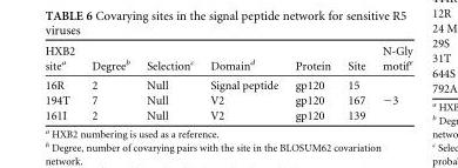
<table><thead><tr><td>HXB2 site<sup>a</sup></td><td>Degree<sup>b</sup></td><td>Selection<sup>c</sup></td><td>Domain<sup>d</sup></td><td>Protein</td><td>Site</td><td>N-Gly motif<sup>e</sup></td></tr></thead><tbody><tr><td>16R</td><td>2</td><td>Null</td><td>Signal peptide</td><td>gp120</td><td>15</td><td></td></tr><tr><td>194T</td><td>7</td><td>Null</td><td>V2</td><td>gp120</td><td>167</td><td>−3</td></tr><tr><td>161I</td><td>2</td><td>Null</td><td>V2</td><td>gp120</td><td>139</td><td></td></tr></tbody></table>